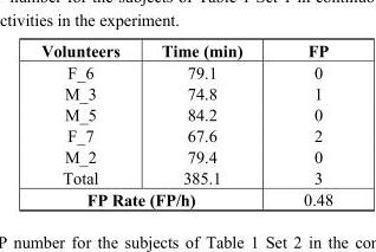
<table><thead><tr><td>Volunteers</td><td>Time (min)</td><td>FP</td></tr></thead><tbody><tr><td>F_6</td><td>79.1</td><td>0</td></tr><tr><td>M_3</td><td>74.8</td><td>1</td></tr><tr><td>M_5</td><td>84.2</td><td>0</td></tr><tr><td>F_7</td><td>67.6</td><td>2</td></tr><tr><td>M_2</td><td>79.4</td><td>0</td></tr><tr><td>Total</td><td>385.1</td><td>3</td></tr><tr><td colspan="2">FP Rate (FP/h)</td><td>0.48</td></tr></tbody></table>